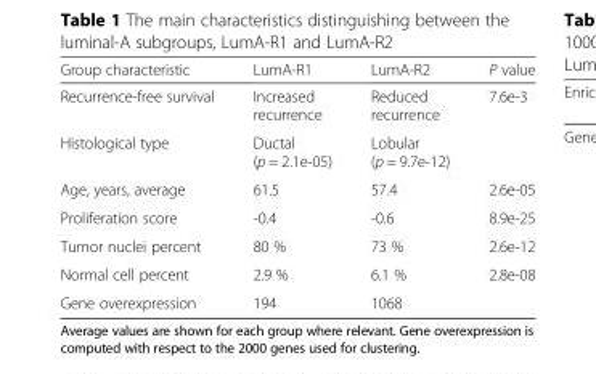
<table><thead><tr><td>Group characteristic</td><td>LumA-R1</td><td>LumA-R2</td><td>P value</td></tr></thead><tbody><tr><td>Recurrence-free survival</td><td>Increased recurrence</td><td>Reduced recurrence</td><td>7.6e-3</td></tr><tr><td>Histological type</td><td>Ductal (p = 2.1e-05)</td><td>Lobular (p = 9.7e-12)</td><td></td></tr><tr><td>Age, years, average</td><td>61.5</td><td>57.4</td><td>2.6e-05</td></tr><tr><td>Proliferation score</td><td>-0.4</td><td>-0.6</td><td>8.9e-25</td></tr><tr><td>Tumor nuclei percent</td><td>80 %</td><td>73 %</td><td>2.6e-12</td></tr><tr><td>Normal cell percent</td><td>2.9 %</td><td>6.1 %</td><td>2.8e-08</td></tr><tr><td>Gene overexpression</td><td>194</td><td>1068</td><td></td></tr></tbody></table>